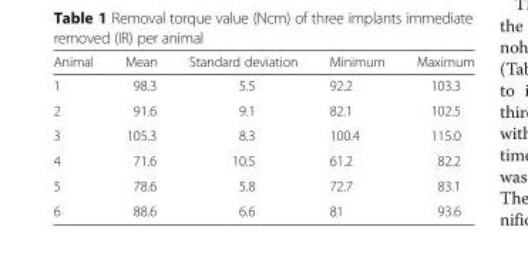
<table><thead><tr><td>Animal</td><td>Mean</td><td>Standard deviation</td><td>Minimum</td><td>Maximum</td></tr></thead><tbody><tr><td>1</td><td>98.3</td><td>5.5</td><td>92.2</td><td>103.3</td></tr><tr><td>2</td><td>91.6</td><td>9.1</td><td>82.1</td><td>102.5</td></tr><tr><td>3</td><td>105.3</td><td>8.3</td><td>100.4</td><td>115.0</td></tr><tr><td>4</td><td>71.6</td><td>10.5</td><td>61.2</td><td>82.2</td></tr><tr><td>5</td><td>78.6</td><td>5.8</td><td>72.7</td><td>83.1</td></tr><tr><td>6</td><td>88.6</td><td>6.6</td><td>81</td><td>93.6</td></tr></tbody></table>